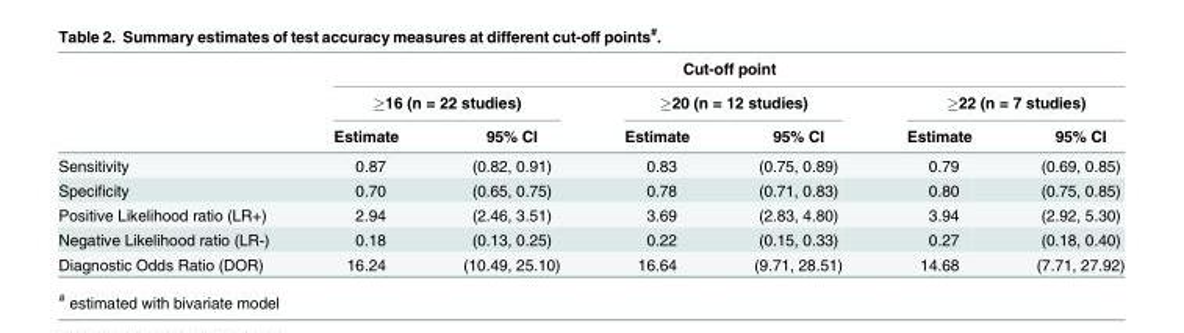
<table><thead><tr><td rowspan="3"></td><td colspan="6">Cut-off point</td></tr><tr><td colspan="2">≥16 (n = 22 studies)</td><td colspan="2">≥20 (n = 12 studies)</td><td colspan="2">≥22 (n = 7 studies)</td></tr><tr><td>Estimate</td><td>95% CI</td><td>Estimate</td><td>95% CI</td><td>Estimate</td><td>95% CI</td></tr></thead><tbody><tr><td>Sensitivity</td><td>0.87</td><td>(0.82, 0.91)</td><td>0.83</td><td>(0.75, 0.89)</td><td>0.79</td><td>(0.69, 0.85)</td></tr><tr><td>Specificity</td><td>0.70</td><td>(0.65, 0.75)</td><td>0.78</td><td>(0.71, 0.83)</td><td>0.80</td><td>(0.75, 0.85)</td></tr><tr><td>Positive Likelihood ratio (LR+)</td><td>2.94</td><td>(2.46, 3.51)</td><td>3.69</td><td>(2.83, 4.80)</td><td>3.94</td><td>(2.92, 5.30)</td></tr><tr><td>Negative Likelihood ratio (LR-)</td><td>0.18</td><td>(0.13, 0.25)</td><td>0.22</td><td>(0.15, 0.33)</td><td>0.27</td><td>(0.18, 0.40)</td></tr><tr><td>Diagnostic Odds Ratio (DOR)</td><td>16.24</td><td>(10.49, 25.10)</td><td>16.64</td><td>(9.71, 28.51)</td><td>14.68</td><td>(7.71, 27.92)</td></tr></tbody></table>